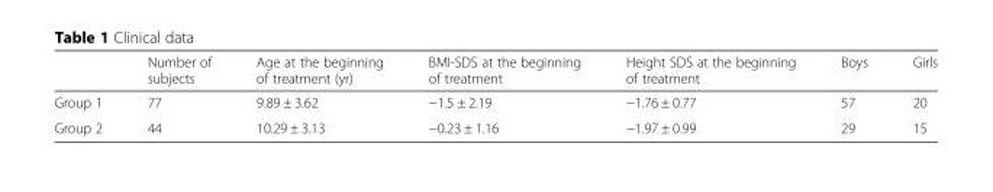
<table><thead><tr><td></td><td>Number of subjects</td><td>Age at the beginning of treatment (yr)</td><td>BMI-SDS at the beginning of treatment</td><td>Height SDS at the beginning of treatment</td><td>Boys</td><td>Girls</td></tr></thead><tbody><tr><td>Group 1</td><td>77</td><td>9.89 ± 3.62</td><td>−1.5 ± 2.19</td><td>−1.76 ± 0.77</td><td>57</td><td>20</td></tr><tr><td>Group 2</td><td>44</td><td>10.29 ± 3.13</td><td>−0.23 ± 1.16</td><td>−1.97 ± 0.99</td><td>29</td><td>15</td></tr></tbody></table>